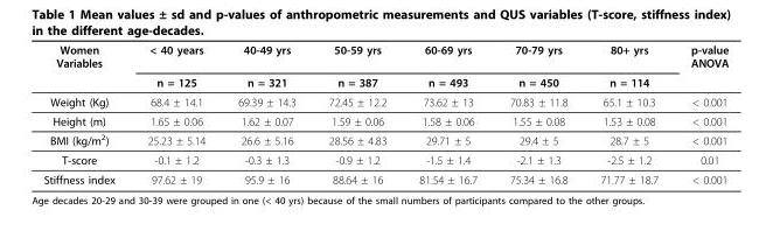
<table><thead><tr><td rowspan="2">Women Variables</td><td rowspan="2">&lt; 40 years n = 125</td><td rowspan="2">40-49 yrs n = 321</td><td rowspan="2">50-59 yrs n = 387</td><td rowspan="2">60-69 yrs n = 493</td><td rowspan="2">70-79 yrs n = 450</td><td rowspan="2">80+ yrs n = 114</td><td rowspan="2">p-value ANOVA</td></tr><tr></tr></thead><tbody><tr><td>Weight (Kg)</td><td>68.4 ± 14.1</td><td>69.39 ± 14.3</td><td>72.45 ± 12.2</td><td>73.62 ± 13</td><td>70.83 ± 11.8</td><td>65.1 ± 10.3</td><td>&lt; 0.001</td></tr><tr><td>Height (m)</td><td>1.65 ± 0.06</td><td>1.62 ± 0.07</td><td>1.59 ± 0.06</td><td>1.58 ± 0.06</td><td>1.55 ± 0.08</td><td>1.53 ± 0.08</td><td>&lt; 0.001</td></tr><tr><td>BMI (kg/m<sup>2</sup>)</td><td>25.23 ± 5.14</td><td>26.6 ± 5.16</td><td>28.56 ± 4.83</td><td>29.71 ± 5</td><td>29.4 ± 5</td><td>28.7 ± 5</td><td>&lt; 0.001</td></tr><tr><td>T-score</td><td>-0.1 ± 1.2</td><td>-0.3 ± 1.3</td><td>-0.9 ± 1.2</td><td>-1.5 ± 1.4</td><td>-2.1 ± 1.3</td><td>-2.5 ± 1.2</td><td>0.01</td></tr><tr><td>Stiffness index</td><td>97.62 ± 19</td><td>95.9 ± 16</td><td>88.64 ± 16</td><td>81.54 ± 16.7</td><td>75.34 ± 16.8</td><td>71.77 ± 18.7</td><td>&lt; 0.001</td></tr></tbody></table>